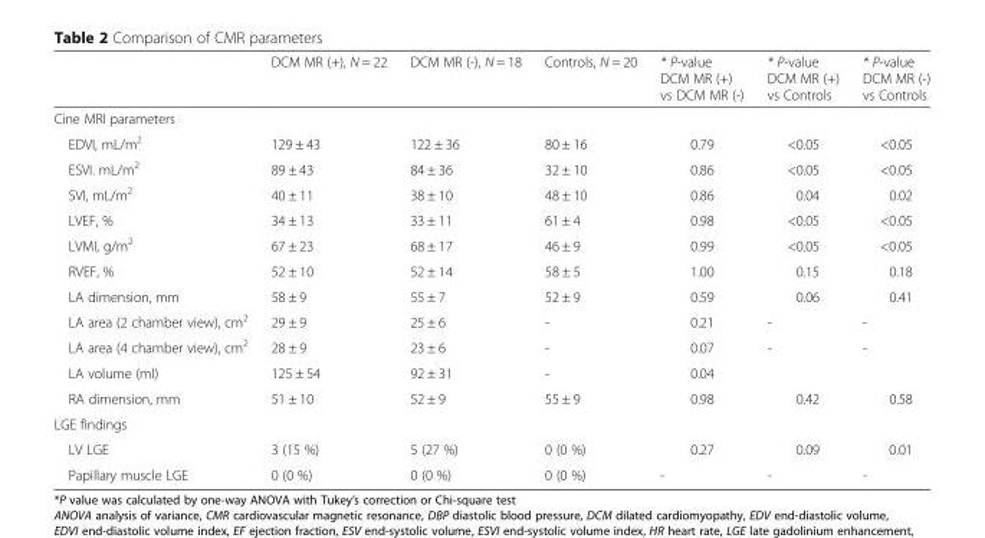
<table><thead><tr><td></td><td>DCM MR (+), N = 22</td><td>DCM MR (-), N = 18</td><td>Controls, N = 20</td><td>* P-value DCM MR (+) vs DCM MR (-)</td><td>* P-value DCM MR (+) vs Controls</td><td>* P-value DCM MR (-) vs Controls</td></tr></thead><tbody><tr><td colspan="7">Cine MRI parameters</td></tr><tr><td>EDVI, mL/m<sup>2</sup></td><td>129 ± 43</td><td>122 ± 36</td><td>80 ± 16</td><td>0.79</td><td>&lt;0.05</td><td>&lt;0.05</td></tr><tr><td>ESVI. mL/m<sup>2</sup></td><td>89 ± 43</td><td>84 ± 36</td><td>32 ± 10</td><td>0.86</td><td>&lt;0.05</td><td>&lt;0.05</td></tr><tr><td>SVI, mL/m<sup>2</sup></td><td>40 ± 11</td><td>38 ± 10</td><td>48 ± 10</td><td>0.86</td><td>0.04</td><td>0.02</td></tr><tr><td>LVEF, %</td><td>34 ± 13</td><td>33 ± 11</td><td>61 ± 4</td><td>0.98</td><td>&lt;0.05</td><td>&lt;0.05</td></tr><tr><td>LVMI, g/m<sup>2</sup></td><td>67 ± 23</td><td>68 ± 17</td><td>46 ± 9</td><td>0.99</td><td>&lt;0.05</td><td>&lt;0.05</td></tr><tr><td>RVEF, %</td><td>52 ± 10</td><td>52 ± 14</td><td>58 ± 5</td><td>1.00</td><td>0.15</td><td>0.18</td></tr><tr><td>LA dimension, mm</td><td>58 ± 9</td><td>55 ± 7</td><td>52 ± 9</td><td>0.59</td><td>0.06</td><td>0.41</td></tr><tr><td>LA area (2 chamber view), cm<sup>2</sup></td><td>29 ± 9</td><td>25 ± 6</td><td>-</td><td>0.21</td><td>-</td><td>-</td></tr><tr><td>LA area (4 chamber view), cm<sup>2</sup></td><td>28 ± 9</td><td>23 ± 6</td><td>-</td><td>0.07</td><td>-</td><td>-</td></tr><tr><td>LA volume (ml)</td><td>125 ± 54</td><td>92 ± 31</td><td>-</td><td>0.04</td><td></td><td></td></tr><tr><td>RA dimension, mm</td><td>51 ± 10</td><td>52 ± 9</td><td>55 ± 9</td><td>0.98</td><td>0.42</td><td>0.58</td></tr><tr><td colspan="7">LGE findings</td></tr><tr><td>LV LGE</td><td>3 (15 %)</td><td>5 (27 %)</td><td>0 (0 %)</td><td>0.27</td><td>0.09</td><td>0.01</td></tr><tr><td>Papillary muscle LGE</td><td>0 (0 %)</td><td>0 (0 %)</td><td>0 (0 %)</td><td>-</td><td>-</td><td>-</td></tr></tbody></table>